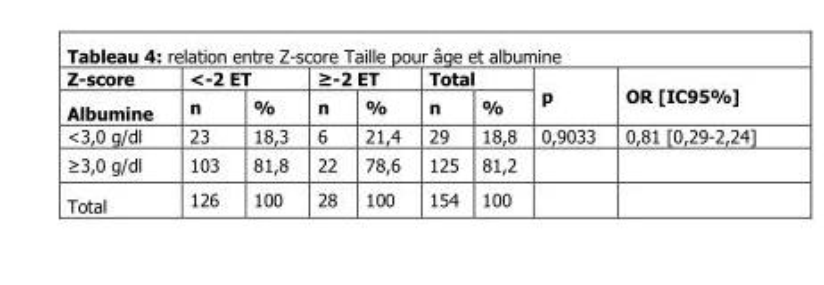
<table><thead><tr><td rowspan="2">Z-score Albumine</td><td colspan="2">&lt;-2 ET</td><td colspan="2">≥-2 ET</td><td colspan="2">Total</td><td rowspan="2">p</td><td rowspan="2">OR [IC95%]</td></tr><tr><td>n</td><td>%</td><td>n</td><td>%</td><td>n</td><td>%</td></tr></thead><tbody><tr><td>&lt;3,0 g/dl</td><td>23</td><td>18,3</td><td>6</td><td>21,4</td><td>29</td><td>18,8</td><td>0,9033</td><td>0,81 [0,29-2,24]</td></tr><tr><td>≥3,0 g/dl</td><td>103</td><td>81,8</td><td>22</td><td>78,6</td><td>125</td><td>81,2</td><td></td><td></td></tr><tr><td>Total</td><td>126</td><td>100</td><td>28</td><td>100</td><td>154</td><td>100</td><td></td><td></td></tr></tbody></table>